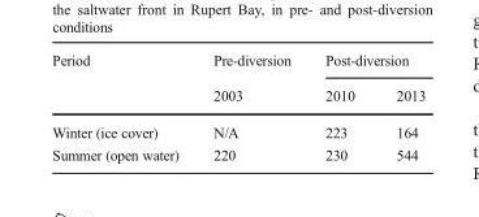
<table><thead><tr><td rowspan="2">Period</td><td rowspan="2">Pre-diversion 2003</td><td colspan="2">Post-diversion</td></tr><tr><td>2010</td><td>2013</td></tr></thead><tbody><tr><td>Winter (ice cover)</td><td>N/A</td><td>223</td><td>164</td></tr><tr><td>Summer (open water)</td><td>220</td><td>230</td><td>544</td></tr></tbody></table>